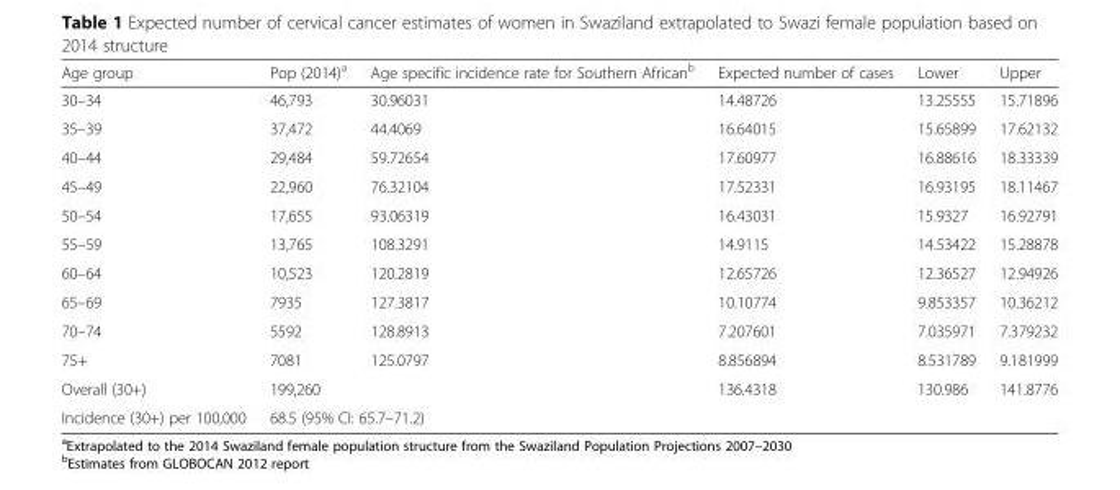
<table><thead><tr><td>Age group</td><td>Pop (2014)<sup>a</sup></td><td>Age specific incidence rate for Southern African<sup>b</sup></td><td>Expected number of cases</td><td>Lower</td><td>Upper</td></tr></thead><tbody><tr><td>30–34</td><td>46,793</td><td>30.96031</td><td>14.48726</td><td>13.25555</td><td>15.71896</td></tr><tr><td>35–39</td><td>37,472</td><td>44.4069</td><td>16.64015</td><td>15.65899</td><td>17.62132</td></tr><tr><td>40–44</td><td>29,484</td><td>59.72654</td><td>17.60977</td><td>16.88616</td><td>18.33339</td></tr><tr><td>45–49</td><td>22,960</td><td>76.32104</td><td>17.52331</td><td>16.93195</td><td>18.11467</td></tr><tr><td>50–54</td><td>17,655</td><td>93.06319</td><td>16.43031</td><td>15.9327</td><td>16.92791</td></tr><tr><td>55–59</td><td>13,765</td><td>108.3291</td><td>14.9115</td><td>14.53422</td><td>15.28878</td></tr><tr><td>60–64</td><td>10,523</td><td>120.2819</td><td>12.65726</td><td>12.36527</td><td>12.94926</td></tr><tr><td>65–69</td><td>7935</td><td>127.3817</td><td>10.10774</td><td>9.853357</td><td>10.36212</td></tr><tr><td>70–74</td><td>5592</td><td>128.8913</td><td>7.207601</td><td>7.035971</td><td>7.379232</td></tr><tr><td>75+</td><td>7081</td><td>125.0797</td><td>8.856894</td><td>8.531789</td><td>9.181999</td></tr><tr><td>Overall (30+)</td><td>199,260</td><td></td><td>136.4318</td><td>130.986</td><td>141.8776</td></tr><tr><td>Incidence (30+) per 100,000</td><td colspan="2">68.5 (95% CI: 65.7–71.2)</td><td></td><td></td><td></td></tr></tbody></table>